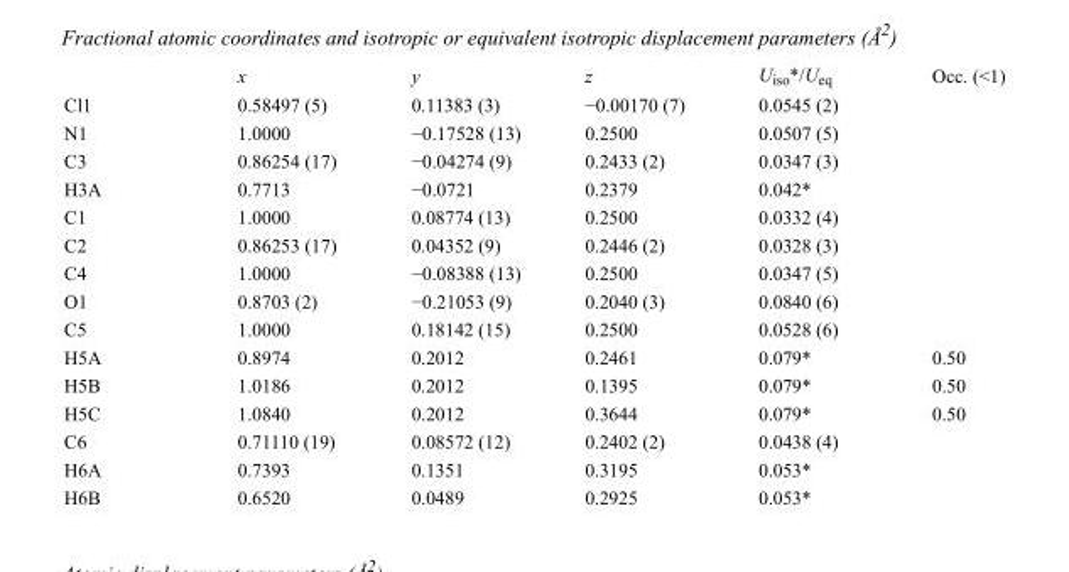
<table><thead><tr><td></td><td>x</td><td>y</td><td>z</td><td>U<sub>iso</sub>*/U<sub>eq</sub></td><td>Occ. (&lt;1)</td></tr></thead><tbody><tr><td>Cl1</td><td>0.58497 (5)</td><td>0.11383 (3)</td><td>−0.00170 (7)</td><td>0.0545 (2)</td><td></td></tr><tr><td>N1</td><td>1.0000</td><td>−0.17528 (13)</td><td>0.2500</td><td>0.0507 (5)</td><td></td></tr><tr><td>C3</td><td>0.86254 (17)</td><td>−0.04274 (9)</td><td>0.2433 (2)</td><td>0.0347 (3)</td><td></td></tr><tr><td>H3A</td><td>0.7713</td><td>−0.0721</td><td>0.2379</td><td>0.042*</td><td></td></tr><tr><td>C1</td><td>1.0000</td><td>0.08774 (13)</td><td>0.2500</td><td>0.0332 (4)</td><td></td></tr><tr><td>C2</td><td>0.86253 (17)</td><td>0.04352 (9)</td><td>0.2446 (2)</td><td>0.0328 (3)</td><td></td></tr><tr><td>C4</td><td>1.0000</td><td>−0.08388 (13)</td><td>0.2500</td><td>0.0347 (5)</td><td></td></tr><tr><td>O1</td><td>0.8703 (2)</td><td>−0.21053 (9)</td><td>0.2040 (3)</td><td>0.0840 (6)</td><td></td></tr><tr><td>C5</td><td>1.0000</td><td>0.18142 (15)</td><td>0.2500</td><td>0.0528 (6)</td><td></td></tr><tr><td>H5A</td><td>0.8974</td><td>0.2012</td><td>0.2461</td><td>0.079*</td><td>0.50</td></tr><tr><td>H5B</td><td>1.0186</td><td>0.2012</td><td>0.1395</td><td>0.079*</td><td>0.50</td></tr><tr><td>H5C</td><td>1.0840</td><td>0.2012</td><td>0.3644</td><td>0.079*</td><td>0.50</td></tr><tr><td>C6</td><td>0.71110 (19)</td><td>0.08572 (12)</td><td>0.2402 (2)</td><td>0.0438 (4)</td><td></td></tr><tr><td>H6A</td><td>0.7393</td><td>0.1351</td><td>0.3195</td><td>0.053*</td><td></td></tr><tr><td>H6B</td><td>0.6520</td><td>0.0489</td><td>0.2925</td><td>0.053*</td><td></td></tr></tbody></table>